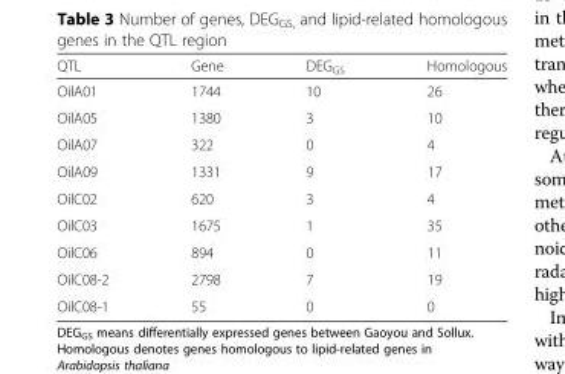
<table><thead><tr><td>QTL</td><td>Gene</td><td>DEG<sub>GS</sub></td><td>Homologous</td></tr></thead><tbody><tr><td>OilA01</td><td>1744</td><td>10</td><td>26</td></tr><tr><td>OilA05</td><td>1380</td><td>3</td><td>10</td></tr><tr><td>OilA07</td><td>322</td><td>0</td><td>4</td></tr><tr><td>OilA09</td><td>1331</td><td>9</td><td>17</td></tr><tr><td>OilC02</td><td>620</td><td>3</td><td>4</td></tr><tr><td>OilC03</td><td>1675</td><td>1</td><td>35</td></tr><tr><td>OilC06</td><td>894</td><td>0</td><td>11</td></tr><tr><td>OilC08-2</td><td>2798</td><td>7</td><td>19</td></tr><tr><td>OilC08-1</td><td>55</td><td>0</td><td>0</td></tr></tbody></table>